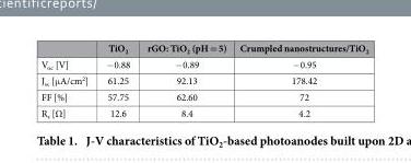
<table><thead><tr><td></td><td>TiO<sub>2</sub></td><td>rGO: TiO<sub>2</sub> (pH = 5)</td><td>Crumpled nanostructures/TiO<sub>2</sub></td></tr></thead><tbody><tr><td>V<sub>oc</sub> [V]</td><td>− 0.88</td><td>− 0.89</td><td>− 0.95</td></tr><tr><td>J<sub>sc</sub> [μ A/cm<sup>2</sup>]</td><td>61.25</td><td>92.13</td><td>178.42</td></tr><tr><td>FF [%]</td><td>57.75</td><td>62.60</td><td>72</td></tr><tr><td>R<sub>s</sub> [Ω]</td><td>12.6</td><td>8.4</td><td>4.2</td></tr></tbody></table>